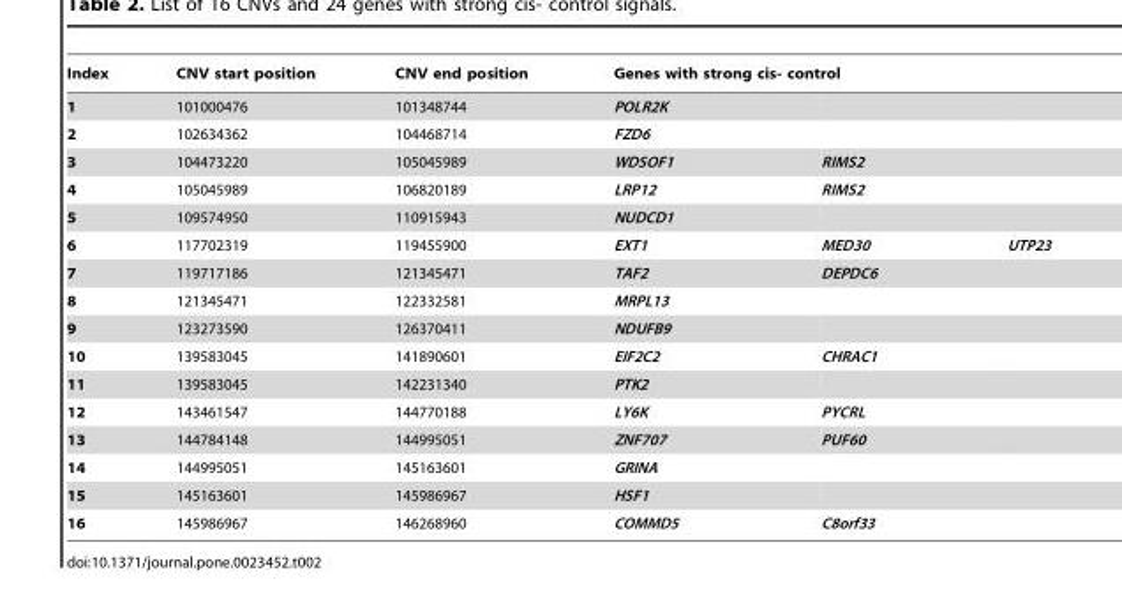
<table><thead><tr><td rowspan="2">Index 1</td><td rowspan="2">CNV start position 101000476</td><td rowspan="2">CNV end position 101348744</td><td colspan="3">Genes with strong cis- control</td></tr><tr><td>POLR2K</td><td></td><td></td></tr></thead><tbody><tr><td>2</td><td>102634362</td><td>104468714</td><td>FZD6</td><td></td><td></td></tr><tr><td>3</td><td>104473220</td><td>105045989</td><td>WDSOF1</td><td>RIMS2</td><td></td></tr><tr><td>4</td><td>105045989</td><td>106820189</td><td>LRP12</td><td>RIMS2</td><td></td></tr><tr><td>5</td><td>109574950</td><td>110915943</td><td>NUDCD1</td><td></td><td></td></tr><tr><td>6</td><td>117702319</td><td>119455900</td><td>EXT1</td><td>MED30</td><td>UTP23</td></tr><tr><td>7</td><td>119717186</td><td>121345471</td><td>TAF2</td><td>DEPDC6</td><td></td></tr><tr><td>8</td><td>121345471</td><td>122332581</td><td>MRPL13</td><td></td><td></td></tr><tr><td>9</td><td>123273590</td><td>126370411</td><td>NDUFB9</td><td></td><td></td></tr><tr><td>10</td><td>139583045</td><td>141890601</td><td>EIF2C2</td><td>CHRAC1</td><td></td></tr><tr><td>11</td><td>139583045</td><td>142231340</td><td>PTK2</td><td></td><td></td></tr><tr><td>12</td><td>143461547</td><td>144770188</td><td>LY6K</td><td>PYCRL</td><td></td></tr><tr><td>13</td><td>144784148</td><td>144995051</td><td>ZNF707</td><td>PUF60</td><td></td></tr><tr><td>14</td><td>144995051</td><td>145163601</td><td>GRINA</td><td></td><td></td></tr><tr><td>15</td><td>145163601</td><td>145986967</td><td>HSF1</td><td></td><td></td></tr><tr><td>16</td><td>145986967</td><td>146268960</td><td>COMMD5</td><td>C8orf33</td><td></td></tr></tbody></table>